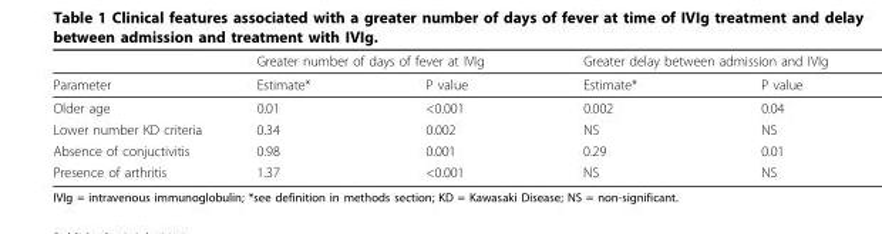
<table><thead><tr><td rowspan="2">Parameter</td><td colspan="2">Greater number of days of fever at IVIg</td><td colspan="2">Greater delay between admission and IVIg</td></tr><tr><td>Estimate*</td><td>P value</td><td>Estimate*</td><td>P value</td></tr></thead><tbody><tr><td>Older age</td><td>0.01</td><td>&lt;0.001</td><td>0.002</td><td>0.04</td></tr><tr><td>Lower number KD criteria</td><td>0.34</td><td>0.002</td><td>NS</td><td>NS</td></tr><tr><td>Absence of conjuctivitis</td><td>0.98</td><td>0.001</td><td>0.29</td><td>0.01</td></tr><tr><td>Presence of arthritis</td><td>1.37</td><td>&lt;0.001</td><td>NS</td><td>NS</td></tr></tbody></table>